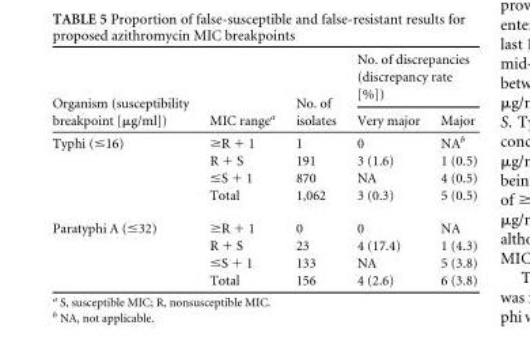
<table><thead><tr><td rowspan="2">Organism (susceptibility breakpoint [μg/ml])</td><td rowspan="2">MIC range<sup>a</sup></td><td rowspan="2">No. of isolates</td><td colspan="2">No. of discrepancies (discrepancy rate [%])</td></tr><tr><td>Very major</td><td>Major</td></tr></thead><tbody><tr><td rowspan="4">Typhi (≤16)</td><td>≥R + 1</td><td>1</td><td>0</td><td>NA<sup>b</sup></td></tr><tr><td>R + S</td><td>191</td><td>3 (1.6)</td><td>1 (0.5)</td></tr><tr><td>≤S + 1</td><td>870</td><td>NA</td><td>4 (0.5)</td></tr><tr><td>Total</td><td>1,062</td><td>3 (0.3)</td><td>5 (0.5)</td></tr><tr><td rowspan="4">Paratyphi A (≤32)</td><td>≥R + 1</td><td>0</td><td>0</td><td>NA</td></tr><tr><td>R + S</td><td>23</td><td>4 (17.4)</td><td>1 (4.3)</td></tr><tr><td>≤S + 1</td><td>133</td><td>NA</td><td>5 (3.8)</td></tr><tr><td>Total</td><td>156</td><td>4 (2.6)</td><td>6 (3.8)</td></tr></tbody></table>